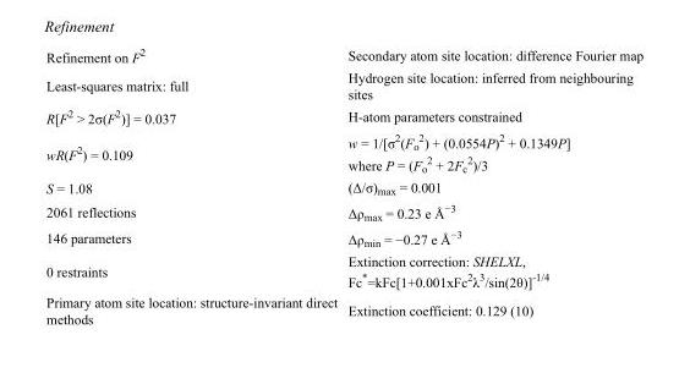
<table><tbody><tr><td>Refinement on F<sup>2</sup></td><td>Secondary atom site location: difference Fourier map</td></tr><tr><td>Least-squares matrix: full</td><td>Hydrogen site location: inferred from neighbouring sites</td></tr><tr><td>R[F<sup>2</sup> &gt; 2σ(F<sup>2</sup>)] = 0.037</td><td>H-atom parameters constrained</td></tr><tr><td>wR(F<sup>2</sup>) = 0.109</td><td>w = 1/[σ<sup>2</sup>(F<sub>o</sub> <sup>2</sup>) + (0.0554P)<sup>2</sup> + 0.1349P] where P = (F<sub>o</sub> <sup>2</sup> + 2F<sub>c</sub> <sup>2</sup>)/3</td></tr><tr><td>S = 1.08</td><td>(Δ/σ)<sub>max</sub> = 0.001</td></tr><tr><td>2061 reflections</td><td>Δρ<sub>max</sub> = 0.23 e Å<sup>−3</sup></td></tr><tr><td>146 parameters</td><td>Δρ<sub>min</sub> = −0.27 e Å<sup>−3</sup></td></tr><tr><td>0 restraints</td><td>Extinction correction: SHELXL, Fc*=kFc[1+0.001xFc<sup>2</sup>λ<sup>3</sup>/sin(2θ)]<sup>-1/4</sup></td></tr><tr><td>Primary atom site location: structure-invariant direct methods</td><td>Extinction coefficient: 0.129 (10)</td></tr></tbody></table>